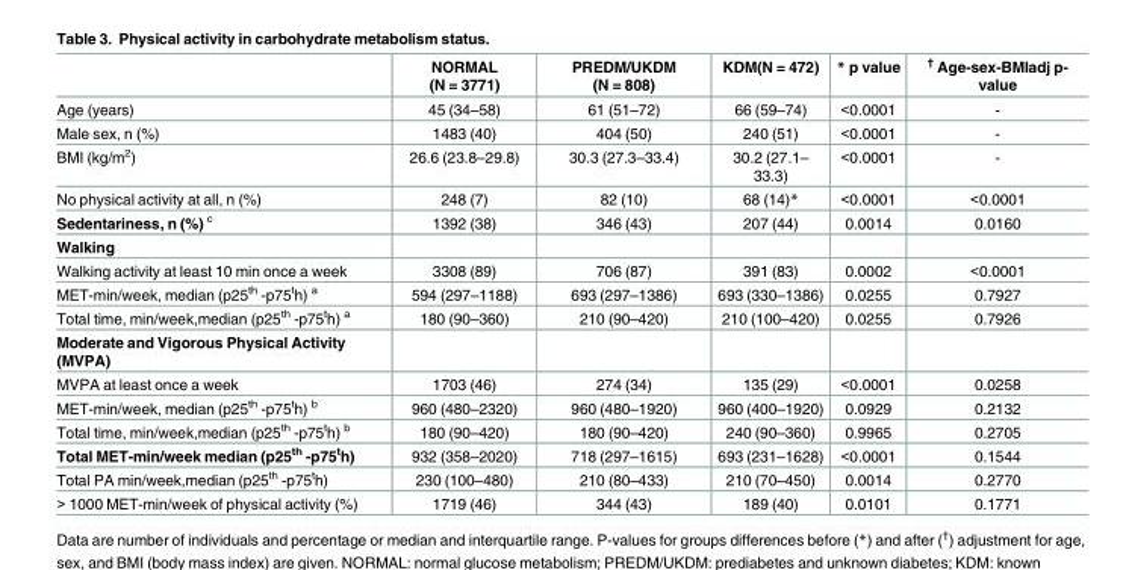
<table><thead><tr><td></td><td>NORMAL (N = 3771)</td><td>PREDM/UKDM (N = 808)</td><td>KDM(N = 472)</td><td>* p value</td><td><sup>†</sup> Age-sex-BMIadj p- value</td></tr></thead><tbody><tr><td>Age (years)</td><td>45 (34–58)</td><td>61 (51–72)</td><td>66 (59–74)</td><td>&lt;0.0001</td><td>-</td></tr><tr><td>Male sex, n (%)</td><td>1483 (40)</td><td>404 (50)</td><td>240 (51)</td><td>&lt;0.0001</td><td>-</td></tr><tr><td>BMI (kg/m<sup>2</sup>)</td><td>26.6 (23.8–29.8)</td><td>30.3 (27.3–33.4)</td><td>30.2 (27.1– 33.3)</td><td>&lt;0.0001</td><td>-</td></tr><tr><td>No physical activity at all, n (%)</td><td>248 (7)</td><td>82 (10)</td><td>68 (14)*</td><td>&lt;0.0001</td><td>&lt;0.0001</td></tr><tr><td>Sedentariness, n (%) <sup>c</sup></td><td>1392 (38)</td><td>346 (43)</td><td>207 (44)</td><td>0.0014</td><td>0.0160</td></tr><tr><td colspan="6">Walking</td></tr><tr><td>Walking activity at least 10 min once a week</td><td>3308 (89)</td><td>706 (87)</td><td>391 (83)</td><td>0.0002</td><td>&lt;0.0001</td></tr><tr><td>MET-min/week, median (p25<sup>th</sup> -p75<sup>t</sup>h) <sup>a</sup></td><td>594 (297–1188)</td><td>693 (297–1386)</td><td>693 (330–1386)</td><td>0.0255</td><td>0.7927</td></tr><tr><td>Total time, min/week,median (p25<sup>th</sup> -p75<sup>t</sup>h) <sup>a</sup></td><td>180 (90–360)</td><td>210 (90–420)</td><td>210 (100–420)</td><td>0.0255</td><td>0.7926</td></tr><tr><td colspan="6">Moderate and Vigorous Physical Activity (MVPA)</td></tr><tr><td>MVPA at least once a week</td><td>1703 (46)</td><td>274 (34)</td><td>135 (29)</td><td>&lt;0.0001</td><td>0.0258</td></tr><tr><td>MET-min/week, median (p25<sup>th</sup> -p75<sup>t</sup>h) <sup>b</sup></td><td>960 (480–2320)</td><td>960 (480–1920)</td><td>960 (400–1920)</td><td>0.0929</td><td>0.2132</td></tr><tr><td>Total time, min/week,median (p25<sup>th</sup> -p75<sup>t</sup>h) <sup>b</sup></td><td>180 (90–420)</td><td>180 (90–420)</td><td>240 (90–360)</td><td>0.9965</td><td>0.2705</td></tr><tr><td>Total MET-min/week median (p25<sup>th</sup> -p75<sup>t</sup>h)</td><td>932 (358–2020)</td><td>718 (297–1615)</td><td>693 (231–1628)</td><td>&lt;0.0001</td><td>0.1544</td></tr><tr><td>Total PA min/week,median (p25<sup>th</sup> -p75<sup>t</sup>h)</td><td>230 (100–480)</td><td>210 (80–433)</td><td>210 (70–450)</td><td>0.0014</td><td>0.2770</td></tr><tr><td>&gt; 1000 MET-min/week of physical activity (%)</td><td>1719 (46)</td><td>344 (43)</td><td>189 (40)</td><td>0.0101</td><td>0.1771</td></tr></tbody></table>